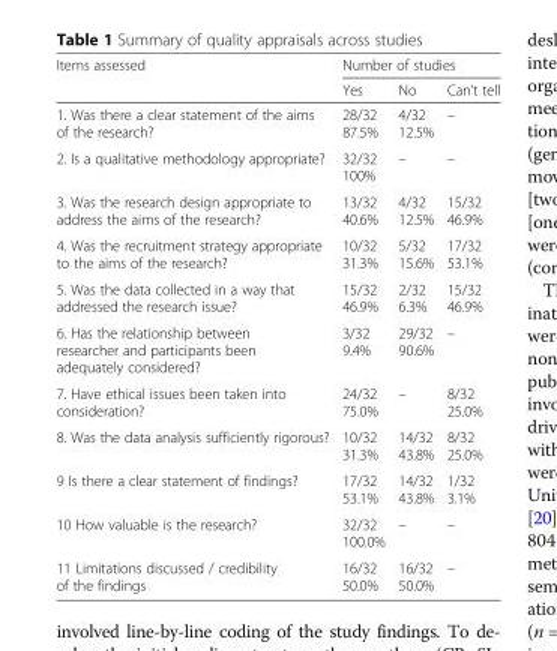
<table><thead><tr><td rowspan="2">Items assessed</td><td colspan="3">Number of studies</td></tr><tr><td>Yes</td><td>No</td><td>Can’t tell</td></tr></thead><tbody><tr><td>1. Was there a clear statement of the aims of the research?</td><td>28/32 87.5%</td><td>4/32 12.5%</td><td>–</td></tr><tr><td>2. Is a qualitative methodology appropriate?</td><td>32/32 100%</td><td>–</td><td>–</td></tr><tr><td>3. Was the research design appropriate to address the aims of the research?</td><td>13/32 40.6%</td><td>4/32 12.5%</td><td>15/32 46.9%</td></tr><tr><td>4. Was the recruitment strategy appropriate to the aims of the research?</td><td>10/32 31.3%</td><td>5/32 15.6%</td><td>17/32 53.1%</td></tr><tr><td>5. Was the data collected in a way that addressed the research issue?</td><td>15/32 46.9%</td><td>2/32 6.3%</td><td>15/32 46.9%</td></tr><tr><td>6. Has the relationship between researcher and participants been adequately considered?</td><td>3/32 9.4%</td><td>29/32 90.6%</td><td>–</td></tr><tr><td>7. Have ethical issues been taken into consideration?</td><td>24/32 75.0%</td><td>–</td><td>8/32 25.0%</td></tr><tr><td>8. Was the data analysis sufficiently rigorous?</td><td>10/32 31.3%</td><td>14/32 43.8%</td><td>8/32 25.0%</td></tr><tr><td>9 Is there a clear statement of findings?</td><td>17/32 53.1%</td><td>14/32 43.8%</td><td>1/32 3.1%</td></tr><tr><td>10 How valuable is the research?</td><td>32/32 100.0%</td><td>–</td><td>–</td></tr><tr><td>11 Limitations discussed / credibility of the findings</td><td>16/32 50.0%</td><td>16/32 50.0%</td><td>–</td></tr></tbody></table>